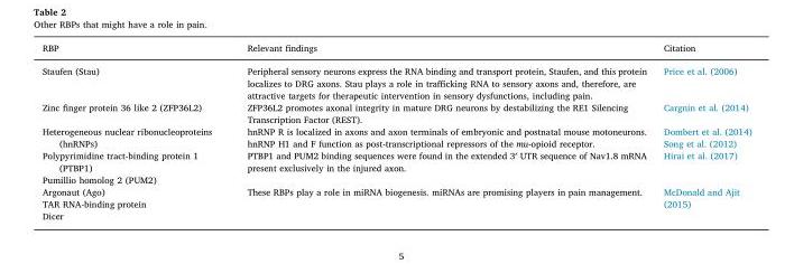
<table><thead><tr><td>RBP</td><td>Relevant findings</td><td>Citation</td></tr></thead><tbody><tr><td>Staufen (Stau)</td><td>Peripheral sensory neurons express the RNA binding and transport protein, Staufen, and this protein localizes to DRG axons. Stau plays a role in trafficking RNA to sensory axons and, therefore, are attractive targets for therapeutic intervention in sensory dysfunctions, including pain.</td><td>Price et al. (2006)</td></tr><tr><td>Zinc finger protein 36 like 2 (ZFP36L2)</td><td>ZFP36L2 promotes axonal integrity in mature DRG neurons by destabilizing the RE1 Silencing Transcription Factor (REST).</td><td>Cargnin et al. (2014)</td></tr><tr><td rowspan="2">Heterogeneous nuclear ribonucleoproteins (hnRNPs)</td><td>hnRNP R is localized in axons and axon terminals of embryonic and postnatal mouse motoneurons.</td><td>Dombert et al. (2014)</td></tr><tr><td>hnRNP H1 and F function as post-transcriptional repressors of the mu-opioid receptor.</td><td>Song et al. (2012)</td></tr><tr><td>Polypyrimidine tract-binding protein 1 (PTBP1)</td><td rowspan="2">PTBP1 and PUM2 binding sequences were found in the extended 3′ UTR sequence of Nav1.8 mRNA present exclusively in the injured axon.</td><td rowspan="2">Hirai et al. (2017)</td></tr><tr><td>Pumillio homolog 2 (PUM2)</td></tr><tr><td>Argonaut (Ago)</td><td rowspan="3">These RBPs play a role in miRNA biogenesis. miRNAs are promising players in pain management.</td><td rowspan="3">McDonald and Ajit (2015)</td></tr><tr><td>TAR RNA-binding protein</td></tr><tr><td>Dicer</td></tr></tbody></table>